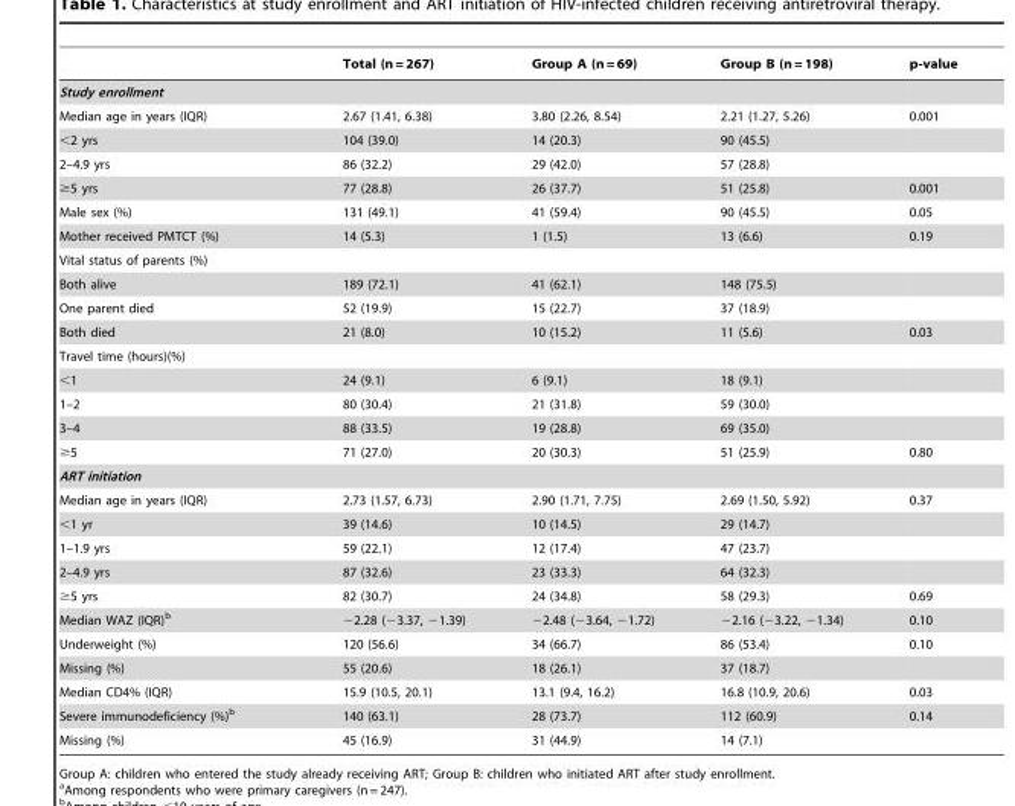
<table><thead><tr><td></td><td>Total (n = 267)</td><td>Group A (n = 69)</td><td>Group B (n = 198)</td><td>p-value</td></tr></thead><tbody><tr><td colspan="5">Study enrollment</td></tr><tr><td>Median age in years (IQR)</td><td>2.67 (1.41, 6.38)</td><td>3.80 (2.26, 8.54)</td><td>2.21 (1.27, 5.26)</td><td>0.001</td></tr><tr><td>&lt;2 yrs</td><td>104 (39.0)</td><td>14 (20.3)</td><td>90 (45.5)</td><td></td></tr><tr><td>2–4.9 yrs</td><td>86 (32.2)</td><td>29 (42.0)</td><td>57 (28.8)</td><td></td></tr><tr><td>≥5 yrs</td><td>77 (28.8)</td><td>26 (37.7)</td><td>51 (25.8)</td><td>0.001</td></tr><tr><td>Male sex (%)</td><td>131 (49.1)</td><td>41 (59.4)</td><td>90 (45.5)</td><td>0.05</td></tr><tr><td>Mother received PMTCT (%)</td><td>14 (5.3)</td><td>1 (1.5)</td><td>13 (6.6)</td><td>0.19</td></tr><tr><td colspan="5">Vital status of parents (%)</td></tr><tr><td>Both alive</td><td>189 (72.1)</td><td>41 (62.1)</td><td>148 (75.5)</td><td></td></tr><tr><td>One parent died</td><td>52 (19.9)</td><td>15 (22.7)</td><td>37 (18.9)</td><td></td></tr><tr><td>Both died</td><td>21 (8.0)</td><td>10 (15.2)</td><td>11 (5.6)</td><td>0.03</td></tr><tr><td colspan="5">Travel time (hours)(%)</td></tr><tr><td>&lt;1</td><td>24 (9.1)</td><td>6 (9.1)</td><td>18 (9.1)</td><td></td></tr><tr><td>1–2</td><td>80 (30.4)</td><td>21 (31.8)</td><td>59 (30.0)</td><td></td></tr><tr><td>3–4</td><td>88 (33.5)</td><td>19 (28.8)</td><td>69 (35.0)</td><td></td></tr><tr><td>≥5</td><td>71 (27.0)</td><td>20 (30.3)</td><td>51 (25.9)</td><td>0.80</td></tr><tr><td colspan="5">ART initiation</td></tr><tr><td>Median age in years (IQR)</td><td>2.73 (1.57, 6.73)</td><td>2.90 (1.71, 7.75)</td><td>2.69 (1.50, 5.92)</td><td>0.37</td></tr><tr><td>&lt;1 yr</td><td>39 (14.6)</td><td>10 (14.5)</td><td>29 (14.7)</td><td></td></tr><tr><td>1–1.9 yrs</td><td>59 (22.1)</td><td>12 (17.4)</td><td>47 (23.7)</td><td></td></tr><tr><td>2–4.9 yrs</td><td>87 (32.6)</td><td>23 (33.3)</td><td>64 (32.3)</td><td></td></tr><tr><td>≥5 yrs</td><td>82 (30.7)</td><td>24 (34.8)</td><td>58 (29.3)</td><td>0.69</td></tr><tr><td>Median WAZ (IQR)<sup>b</sup></td><td>−2.28 (−3.37, −1.39)</td><td>−2.48 (−3.64, −1.72)</td><td>−2.16 (−3.22, −1.34)</td><td>0.10</td></tr><tr><td>Underweight (%)</td><td>120 (56.6)</td><td>34 (66.7)</td><td>86 (53.4)</td><td>0.10</td></tr><tr><td>Missing (%)</td><td>55 (20.6)</td><td>18 (26.1)</td><td>37 (18.7)</td><td></td></tr><tr><td>Median CD4% (IQR)</td><td>15.9 (10.5, 20.1)</td><td>13.1 (9.4, 16.2)</td><td>16.8 (10.9, 20.6)</td><td>0.03</td></tr><tr><td>Severe immunodeficiency (%)<sup>b</sup></td><td>140 (63.1)</td><td>28 (73.7)</td><td>112 (60.9)</td><td>0.14</td></tr><tr><td>Missing (%)</td><td>45 (16.9)</td><td>31 (44.9)</td><td>14 (7.1)</td><td></td></tr></tbody></table>